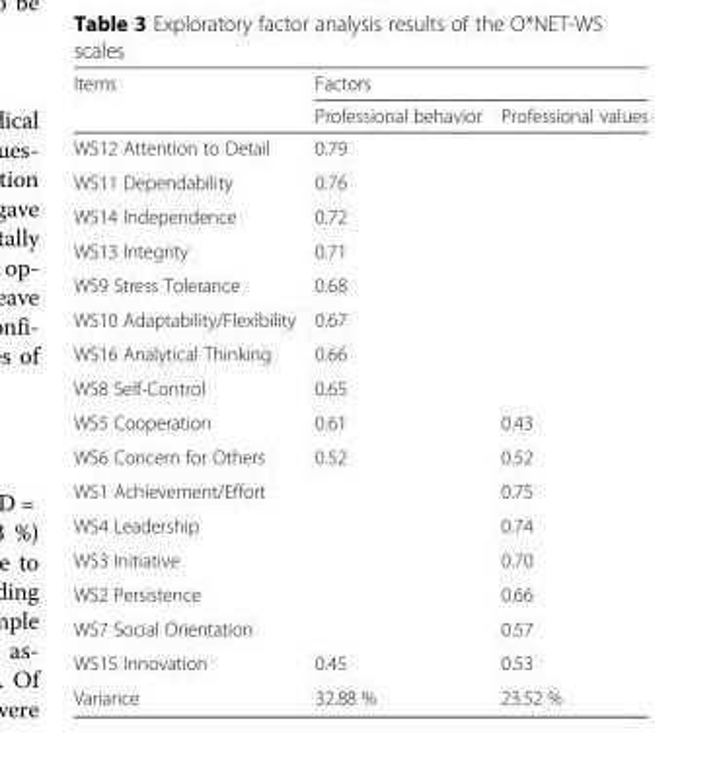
<table><thead><tr><td rowspan="2">Items</td><td colspan="2">Factors</td></tr><tr><td>Professional behavior</td><td>Professional values</td></tr></thead><tbody><tr><td>WS12 Attention to Detail</td><td>0.79</td><td></td></tr><tr><td>WS11 Dependability</td><td>0.76</td><td></td></tr><tr><td>WS14 Independence</td><td>0.72</td><td></td></tr><tr><td>WS13 Integrity</td><td>0.71</td><td></td></tr><tr><td>WS9 Stress Tolerance</td><td>0.68</td><td></td></tr><tr><td>WS10 Adaptability/Flexibility</td><td>0.67</td><td></td></tr><tr><td>WS16 Analytical Thinking</td><td>0.66</td><td></td></tr><tr><td>WS8 Self-Control</td><td>0.65</td><td></td></tr><tr><td>WS5 Cooperation</td><td>0.61</td><td>0.43</td></tr><tr><td>WS6 Concern for Others</td><td>0.52</td><td>0.52</td></tr><tr><td>WS1 Achievement/Effort</td><td></td><td>0.75</td></tr><tr><td>WS4 Leadership</td><td></td><td>0.74</td></tr><tr><td>WS3 Initiative</td><td></td><td>0.70</td></tr><tr><td>WS2 Persistence</td><td></td><td>0.66</td></tr><tr><td>WS7 Social Orientation</td><td></td><td>0.57</td></tr><tr><td>WS15 Innovation</td><td>0.45</td><td>0.53</td></tr><tr><td>Variance</td><td>32.88 %</td><td>23.52 %</td></tr></tbody></table>